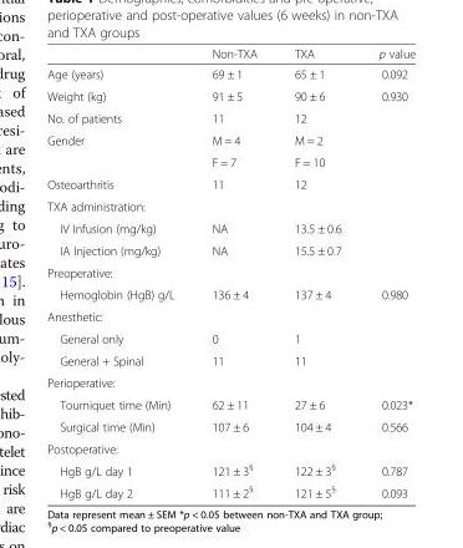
<table><thead><tr><td></td><td>Non-TXA</td><td>TXA</td><td>p value</td></tr></thead><tbody><tr><td>Age (years)</td><td>69 ± 1</td><td>65 ± 1</td><td>0.092</td></tr><tr><td>Weight (kg)</td><td>91 ± 5</td><td>90 ± 6</td><td>0.930</td></tr><tr><td>No. of patients</td><td>11</td><td>12</td><td></td></tr><tr><td rowspan="2">Gender</td><td>M = 4</td><td>M = 2</td><td></td></tr><tr><td>F = 7</td><td>F = 10</td><td></td></tr><tr><td>Osteoarthritis</td><td>11</td><td>12</td><td></td></tr><tr><td colspan="4">TXA administration:</td></tr><tr><td>IV Infusion (mg/kg)</td><td>NA</td><td>13.5 ± 0.6</td><td></td></tr><tr><td>IA Injection (mg/kg)</td><td>NA</td><td>15.5 ± 0.7</td><td></td></tr><tr><td colspan="4">Preoperative:</td></tr><tr><td>Hemoglobin (HgB) g/L</td><td>136 ± 4</td><td>137 ± 4</td><td>0.980</td></tr><tr><td colspan="4">Anesthetic:</td></tr><tr><td>General only</td><td>0</td><td>1</td><td></td></tr><tr><td>General + Spinal</td><td>11</td><td>11</td><td></td></tr><tr><td colspan="4">Perioperative:</td></tr><tr><td>Tourniquet time (Min)</td><td>62 ± 11</td><td>27 ± 6</td><td>0.023*</td></tr><tr><td>Surgical time (Min)</td><td>107 ± 6</td><td>104 ± 4</td><td>0.566</td></tr><tr><td colspan="4">Postoperative:</td></tr><tr><td>HgB g/L day 1</td><td>121 ± 3<sup>§</sup></td><td>122 ± 3<sup>§</sup></td><td>0.787</td></tr><tr><td>HgB g/L day 2</td><td>111 ± 2<sup>§</sup></td><td>121 ± 5<sup>§</sup></td><td>0.093</td></tr></tbody></table>